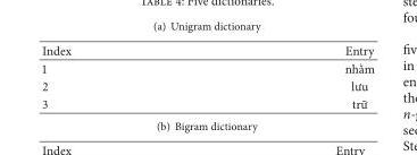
<table><thead><tr><td>Index</td><td>Entry</td></tr></thead><tbody><tr><td>1</td><td>nhằm</td></tr><tr><td>2</td><td>lưu</td></tr><tr><td>3</td><td>trữ</td></tr></tbody></table>